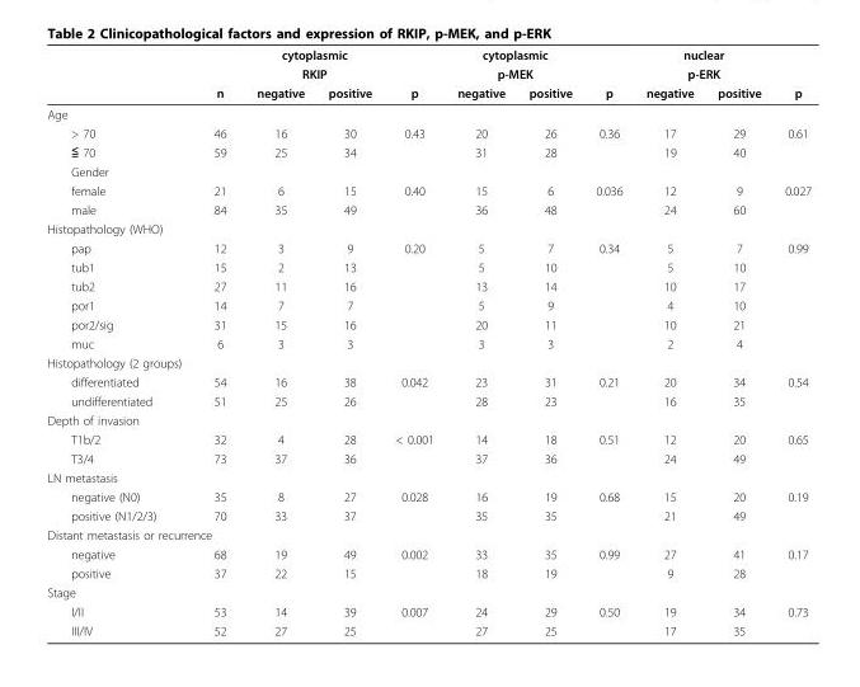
<table><thead><tr><td rowspan="3"></td><td rowspan="3">n</td><td rowspan="2" colspan="2">cytoplasmic RKIP</td><td rowspan="3">p</td><td rowspan="2" colspan="2">cytoplasmic p-MEK</td><td rowspan="3">p</td><td rowspan="2" colspan="2">nuclear p-ERK</td><td rowspan="3">p</td></tr><tr></tr><tr><td>negative</td><td>positive</td><td>negative</td><td>positive</td><td>negative</td><td>positive</td></tr></thead><tbody><tr><td colspan="11">Age</td></tr><tr><td>&gt; 70</td><td>46</td><td>16</td><td>30</td><td>0.43</td><td>20</td><td>26</td><td>0.36</td><td>17</td><td>29</td><td>0.61</td></tr><tr><td>≦ 70</td><td>59</td><td>25</td><td>34</td><td></td><td>31</td><td>28</td><td></td><td>19</td><td>40</td><td></td></tr><tr><td colspan="11">Gender</td></tr><tr><td>female</td><td>21</td><td>6</td><td>15</td><td>0.40</td><td>15</td><td>6</td><td>0.036</td><td>12</td><td>9</td><td>0.027</td></tr><tr><td>male</td><td>84</td><td>35</td><td>49</td><td></td><td>36</td><td>48</td><td></td><td>24</td><td>60</td><td></td></tr><tr><td colspan="11">Histopathology (WHO)</td></tr><tr><td>pap</td><td>12</td><td>3</td><td>9</td><td>0.20</td><td>5</td><td>7</td><td>0.34</td><td>5</td><td>7</td><td>0.99</td></tr><tr><td>tub1</td><td>15</td><td>2</td><td>13</td><td></td><td>5</td><td>10</td><td></td><td>5</td><td>10</td><td></td></tr><tr><td>tub2</td><td>27</td><td>11</td><td>16</td><td></td><td>13</td><td>14</td><td></td><td>10</td><td>17</td><td></td></tr><tr><td>por1</td><td>14</td><td>7</td><td>7</td><td></td><td>5</td><td>9</td><td></td><td>4</td><td>10</td><td></td></tr><tr><td>por2/sig</td><td>31</td><td>15</td><td>16</td><td></td><td>20</td><td>11</td><td></td><td>10</td><td>21</td><td></td></tr><tr><td>muc</td><td>6</td><td>3</td><td>3</td><td></td><td>3</td><td>3</td><td></td><td>2</td><td>4</td><td></td></tr><tr><td colspan="11">Histopathology (2 groups)</td></tr><tr><td>differentiated</td><td>54</td><td>16</td><td>38</td><td>0.042</td><td>23</td><td>31</td><td>0.21</td><td>20</td><td>34</td><td>0.54</td></tr><tr><td>undifferentiated</td><td>51</td><td>25</td><td>26</td><td></td><td>28</td><td>23</td><td></td><td>16</td><td>35</td><td></td></tr><tr><td colspan="11">Depth of invasion</td></tr><tr><td>T1b/2</td><td>32</td><td>4</td><td>28</td><td>&lt; 0.001</td><td>14</td><td>18</td><td>0.51</td><td>12</td><td>20</td><td>0.65</td></tr><tr><td>T3/4</td><td>73</td><td>37</td><td>36</td><td></td><td>37</td><td>36</td><td></td><td>24</td><td>49</td><td></td></tr><tr><td colspan="11">LN metastasis</td></tr><tr><td>negative (N0)</td><td>35</td><td>8</td><td>27</td><td>0.028</td><td>16</td><td>19</td><td>0.68</td><td>15</td><td>20</td><td>0.19</td></tr><tr><td>positive (N1/2/3)</td><td>70</td><td>33</td><td>37</td><td></td><td>35</td><td>35</td><td></td><td>21</td><td>49</td><td></td></tr><tr><td colspan="11">Distant metastasis or recurrence</td></tr><tr><td>negative</td><td>68</td><td>19</td><td>49</td><td>0.002</td><td>33</td><td>35</td><td>0.99</td><td>27</td><td>41</td><td>0.17</td></tr><tr><td>positive</td><td>37</td><td>22</td><td>15</td><td></td><td>18</td><td>19</td><td></td><td>9</td><td>28</td><td></td></tr><tr><td colspan="11">Stage</td></tr><tr><td>I/II</td><td>53</td><td>14</td><td>39</td><td>0.007</td><td>24</td><td>29</td><td>0.50</td><td>19</td><td>34</td><td>0.73</td></tr><tr><td>III/IV</td><td>52</td><td>27</td><td>25</td><td></td><td>27</td><td>25</td><td></td><td>17</td><td>35</td><td></td></tr></tbody></table>